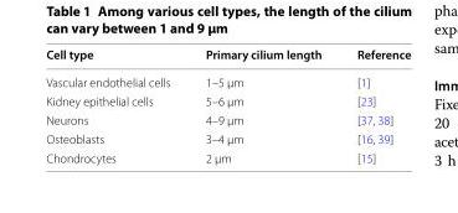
<table><thead><tr><td>Cell type</td><td>Primary cilium length</td><td>Reference</td></tr></thead><tbody><tr><td>Vascular endothelial cells</td><td>1–5 μm</td><td>[1]</td></tr><tr><td>Kidney epithelial cells</td><td>5–6 μm</td><td>[23]</td></tr><tr><td>Neurons</td><td>4–9 μm</td><td>[37, 38]</td></tr><tr><td>Osteoblasts</td><td>3–4 μm</td><td>[16, 39]</td></tr><tr><td>Chondrocytes</td><td>2 μm</td><td>[15]</td></tr></tbody></table>